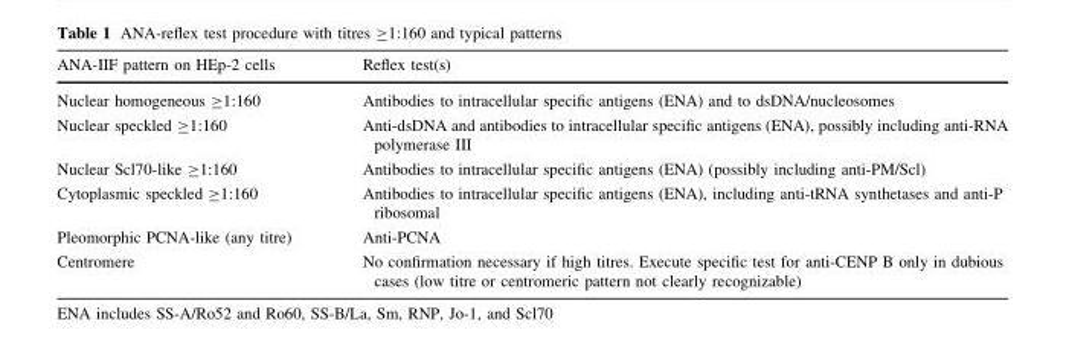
<table><thead><tr><td>ANA-IIF pattern on HEp-2 cells</td><td>Reflex test(s)</td></tr></thead><tbody><tr><td>Nuclear homogeneous ≥1:160</td><td>Antibodies to intracellular specific antigens (ENA) and to dsDNA/nucleosomes</td></tr><tr><td>Nuclear speckled ≥1:160</td><td>Anti-dsDNA and antibodies to intracellular specific antigens (ENA), possibly including anti-RNA polymerase III</td></tr><tr><td>Nuclear Scl70-like ≥1:160</td><td>Antibodies to intracellular specific antigens (ENA) (possibly including anti-PM/Scl)</td></tr><tr><td>Cytoplasmic speckled ≥1:160</td><td>Antibodies to intracellular specific antigens (ENA), including anti-tRNA synthetases and anti-P ribosomal</td></tr><tr><td>Pleomorphic PCNA-like (any titre)</td><td>Anti-PCNA</td></tr><tr><td>Centromere</td><td>No confirmation necessary if high titres. Execute specific test for anti-CENP B only in dubious cases (low titre or centromeric pattern not clearly recognizable)</td></tr></tbody></table>